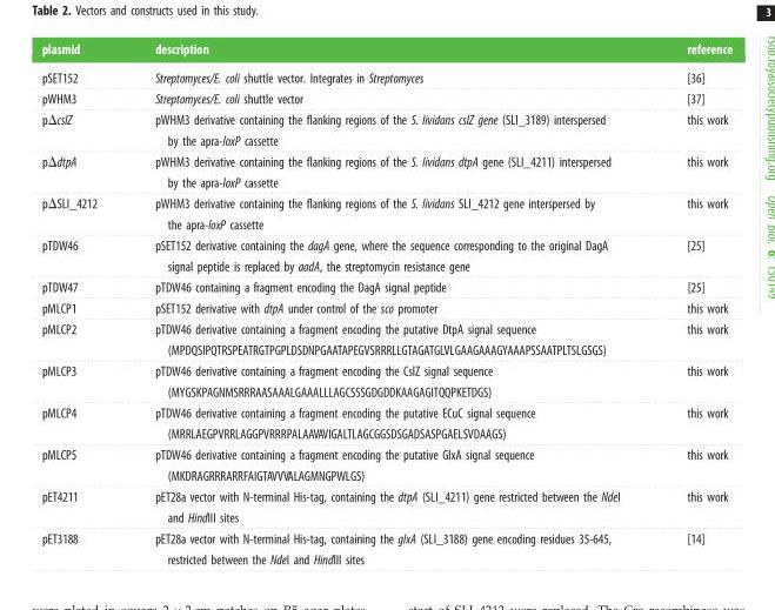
<table><thead><tr><td>plasmid</td><td>description</td><td>reference</td></tr></thead><tbody><tr><td>pSET152</td><td>Streptomyces/E. coli shuttle vector. Integrates in Streptomyces</td><td>[36]</td></tr><tr><td>pWHM3</td><td>Streptomyces/E. coli shuttle vector</td><td>[37]</td></tr><tr><td>pΔcslZ</td><td>pWHM3 derivative containing the flanking regions of the S. lividans cslZ gene (SLI_3189) interspersed by the apra-loxP cassette</td><td>this work</td></tr><tr><td>pΔdtpA</td><td>pWHM3 derivative containing the flanking regions of the S. lividans dtpA gene (SLI_4211) interspersed by the apra-loxP cassette</td><td>this work</td></tr><tr><td>pΔSLI_4212</td><td>pWHM3 derivative containing the flanking regions of the S. lividans SLI_4212 gene interspersed by the apra-loxP cassette</td><td>this work</td></tr><tr><td>pTDW46</td><td>pSET152 derivative containing the dagA gene, where the sequence corresponding to the original DagA signal peptide is replaced by aadA, the streptomycin resistance gene</td><td>[25]</td></tr><tr><td>pTDW47</td><td>pTDW46 containing a fragment encoding the DagA signal peptide</td><td>[25]</td></tr><tr><td>pMLCP1</td><td>pSET152 derivative with dtpA under control of the sco promoter</td><td>this work</td></tr><tr><td>pMLCP2</td><td>pTDW46 derivative containing a fragment encoding the putative DtpA signal sequence (MPDQSIPQTRSPEATRGTPGPLDSDNPGAATAPEGVSRRRLLGTAGATGLVLGAAGAAAGYAAAPSSAATPLTSLGSGS)</td><td>this work</td></tr><tr><td>pMLCP3</td><td>pTDW46 derivative containing a fragment encoding the CslZ signal sequence (MYGSKPAGNMSRRRAASAAALGAAALLLAGCSSSGDGDDKAAGAGITQQPKETDGS)</td><td>this work</td></tr><tr><td>pMLCP4</td><td>pTDW46 derivative containing a fragment encoding the putative ECuC signal sequence (MRRLAEGPVRRLAGGPVRRRPALAAVAVIGALTLAGCGGSDSGADSASPGAELSVDAAGS)</td><td>this work</td></tr><tr><td>pMLCP5</td><td>pTDW46 derivative containing a fragment encoding the putative GlxA signal sequence (MKDRAGRRRARRFAIGTAVVVALAGMNGPWLGS)</td><td>this work</td></tr><tr><td>pET4211</td><td>pET28a vector with N-terminal His-tag, containing the dtpA (SLI_4211) gene restricted between the NdeI and HindIII sites</td><td>this work</td></tr><tr><td>pET3188</td><td>pET28a vector with N-terminal His-tag, containing the glxA (SLI_3188) gene encoding residues 35-645, restricted between the NdeI and HindIII sites</td><td>[14]</td></tr></tbody></table>